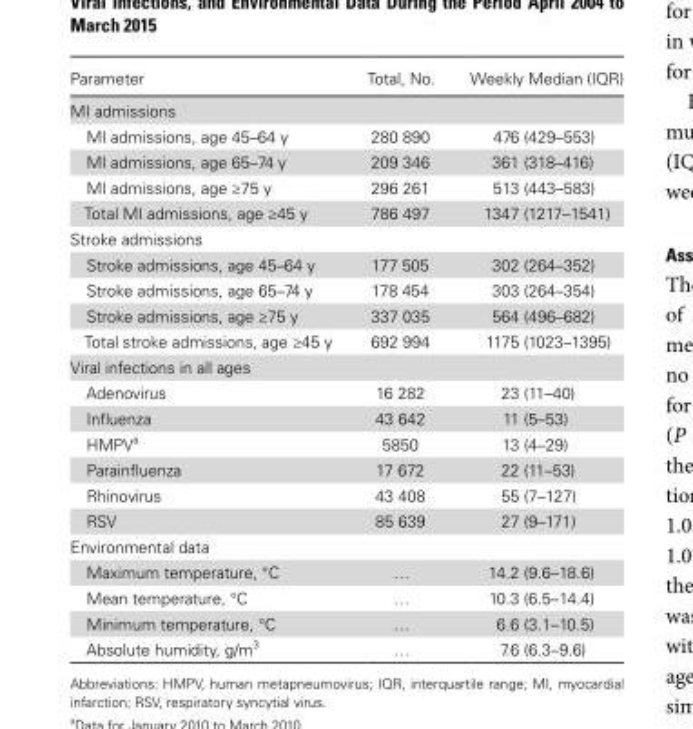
<table><thead><tr><td>Parameter</td><td>Total, No.</td><td>Weekly Median (IQR)</td></tr></thead><tbody><tr><td colspan="3">MI admissions</td></tr><tr><td>MI admissions, age 45–64 y</td><td>280 890</td><td>476 (429–553)</td></tr><tr><td>MI admissions, age 65–74 y</td><td>209 346</td><td>361 (318–416)</td></tr><tr><td>MI admissions, age ≥75 y</td><td>296 261</td><td>513 (443–583)</td></tr><tr><td>Total MI admissions, age ≥45 y</td><td>786 497</td><td>1347 (1217–1541)</td></tr><tr><td colspan="3">Stroke admissions</td></tr><tr><td>Stroke admissions, age 45–64 y</td><td>177 505</td><td>302 (264–352)</td></tr><tr><td>Stroke admissions, age 65–74 y</td><td>178 454</td><td>303 (264–354)</td></tr><tr><td>Stroke admissions, age ≥75 y</td><td>337 035</td><td>564 (496–682)</td></tr><tr><td>Total stroke admissions, age ≥45 y</td><td>692 994</td><td>1175 (1023–1395)</td></tr><tr><td colspan="3">Viral infections in all ages</td></tr><tr><td>Adenovirus</td><td>16 282</td><td>23 (11–40)</td></tr><tr><td>Influenza</td><td>43 642</td><td>11 (5–53)</td></tr><tr><td>HMPV<sup>a</sup></td><td>5850</td><td>13 (4–29)</td></tr><tr><td>Parainfluenza</td><td>17 672</td><td>22 (11–53)</td></tr><tr><td>Rhinovirus</td><td>43 408</td><td>55 (7–127)</td></tr><tr><td>RSV</td><td>85 639</td><td>27 (9–171)</td></tr><tr><td colspan="3">Environmental data</td></tr><tr><td>Maximum temperature, °C</td><td>…</td><td>14.2 (9.6–18.6)</td></tr><tr><td>Mean temperature, °C</td><td>…</td><td>10.3 (6.5–14.4)</td></tr><tr><td>Minimum temperature, °C</td><td>…</td><td>6.6 (3.1–10.5)</td></tr><tr><td>Absolute humidity, g/m<sup>3</sup></td><td>…</td><td>7.6 (6.3–9.6)</td></tr></tbody></table>